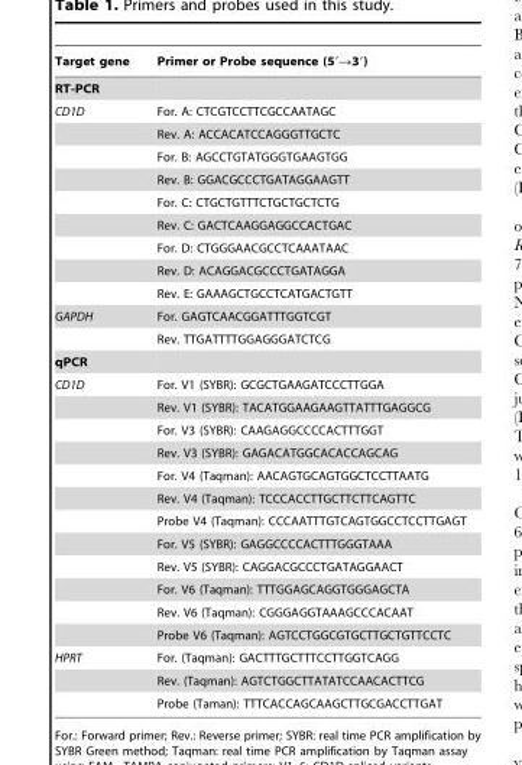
<table><thead><tr><td>Target gene</td><td>Primer or Probe sequence (5′→3′)</td></tr></thead><tbody><tr><td colspan="2">RT-PCR</td></tr><tr><td rowspan="9">CD1D</td><td>For. A: CTCGTCCTTCGCCAATAGC</td></tr><tr><td>Rev. A: ACCACATCCAGGGTTGCTC</td></tr><tr><td>For. B: AGCCTGTATGGGTGAAGTGG</td></tr><tr><td>Rev. B: GGACGCCCTGATAGGAAGTT</td></tr><tr><td>For. C: CTGCTGTTTCTGCTGCTCTG</td></tr><tr><td>Rev. C: GACTCAAGGAGGCCACTGAC</td></tr><tr><td>For. D: CTGGGAACGCCTCAAATAAC</td></tr><tr><td>Rev. D: ACAGGACGCCCTGATAGGA</td></tr><tr><td>Rev. E: GAAAGCTGCCTCATGACTGTT</td></tr><tr><td rowspan="2">GAPDH</td><td>For. GAGTCAACGGATTTGGTCGT</td></tr><tr><td>Rev. TTGATTTTGGAGGGATCTCG</td></tr><tr><td colspan="2">qPCR</td></tr><tr><td rowspan="12">CD1D</td><td>For. V1 (SYBR): GCGCTGAAGATCCCTTGGA</td></tr><tr><td>Rev. V1 (SYBR): TACATGGAAGAAGTTATTTGAGGCG</td></tr><tr><td>For. V3 (SYBR): CAAGAGGCCCCACTTTGGT</td></tr><tr><td>Rev. V3 (SYBR): GAGACATGGCACACCAGCAG</td></tr><tr><td>For. V4 (Taqman): AACAGTGCAGTGGCTCCTTAATG</td></tr><tr><td>Rev. V4 (Taqman): TCCCACCTTGCTTCTTCAGTTC</td></tr><tr><td>Probe V4 (Taqman): CCCAATTTGTCAGTGGCCTCCTTGAGT</td></tr><tr><td>For. V5 (SYBR): GAGGCCCCACTTTGGGTAAA</td></tr><tr><td>Rev. V5 (SYBR): CAGGACGCCCTGATAGGAACT</td></tr><tr><td>For. V6 (Taqman): TTTGGAGCAGGTGGGAGCTA</td></tr><tr><td>Rev. V6 (Taqman): CGGGAGGTAAAGCCCACAAT</td></tr><tr><td>Probe V6 (Taqman): AGTCCTGGCGTGCTTGCTGTTCCTC</td></tr><tr><td rowspan="3">HPRT</td><td>For. (Taqman): GACTTTGCTTTCCTTGGTCAGG</td></tr><tr><td>Rev. (Taqman): AGTCTGGCTTATATCCAACACTTCG</td></tr><tr><td>Probe (Taman): TTTCACCAGCAAGCTTGCGACCTTGAT</td></tr></tbody></table>